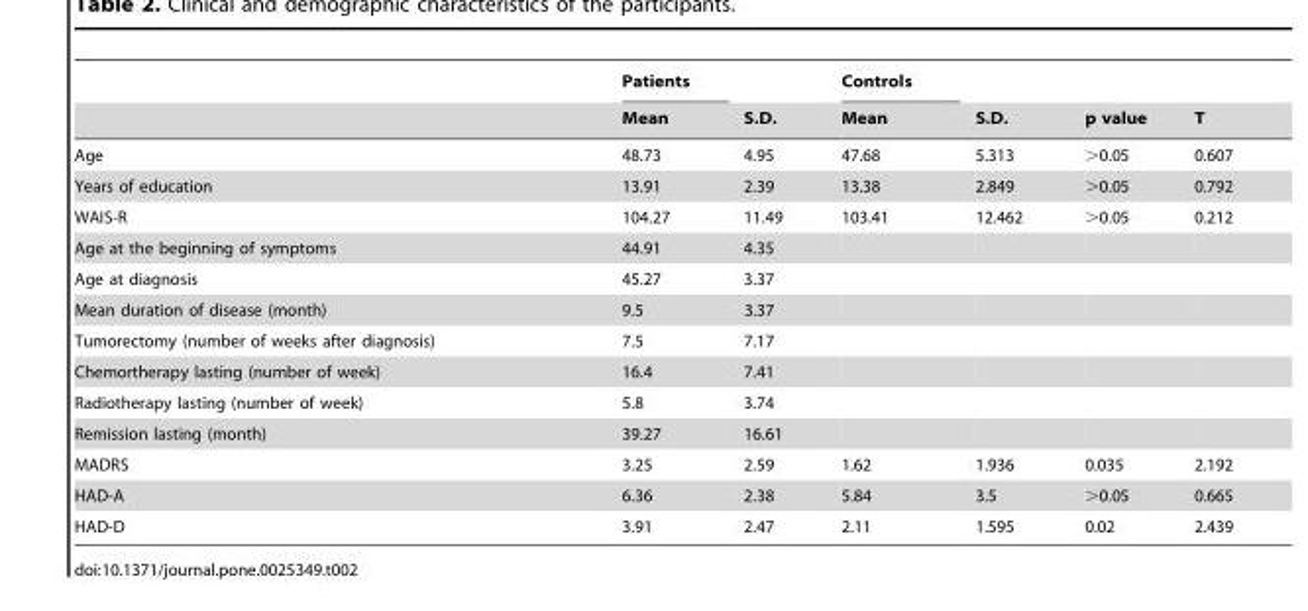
<table><thead><tr><td rowspan="2"></td><td rowspan="2">Patients Mean</td><td rowspan="2">S.D.</td><td rowspan="2">Controls Mean</td><td rowspan="2">S.D.</td><td rowspan="2">p value</td><td rowspan="2">T</td></tr><tr></tr></thead><tbody><tr><td>Age</td><td>48.73</td><td>4.95</td><td>47.68</td><td>5.313</td><td>&gt;0.05</td><td>0.607</td></tr><tr><td>Years of education</td><td>13.91</td><td>2.39</td><td>13.38</td><td>2.849</td><td>&gt;0.05</td><td>0.792</td></tr><tr><td>WAIS-R</td><td>104.27</td><td>11.49</td><td>103.41</td><td>12.462</td><td>&gt;0.05</td><td>0.212</td></tr><tr><td>Age at the beginning of symptoms</td><td>44.91</td><td>4.35</td><td></td><td></td><td></td><td></td></tr><tr><td>Age at diagnosis</td><td>45.27</td><td>3.37</td><td></td><td></td><td></td><td></td></tr><tr><td>Mean duration of disease (month)</td><td>9.5</td><td>3.37</td><td></td><td></td><td></td><td></td></tr><tr><td>Tumorectomy (number of weeks after diagnosis)</td><td>7.5</td><td>7.17</td><td></td><td></td><td></td><td></td></tr><tr><td>Chemortherapy lasting (number of week)</td><td>16.4</td><td>7.41</td><td></td><td></td><td></td><td></td></tr><tr><td>Radiotherapy lasting (number of week)</td><td>5.8</td><td>3.74</td><td></td><td></td><td></td><td></td></tr><tr><td>Remission lasting (month)</td><td>39.27</td><td>16.61</td><td></td><td></td><td></td><td></td></tr><tr><td>MADRS</td><td>3.25</td><td>2.59</td><td>1.62</td><td>1.936</td><td>0.035</td><td>2.192</td></tr><tr><td>HAD-A</td><td>6.36</td><td>2.38</td><td>5.84</td><td>3.5</td><td>&gt;0.05</td><td>0.665</td></tr><tr><td>HAD-D</td><td>3.91</td><td>2.47</td><td>2.11</td><td>1.595</td><td>0.02</td><td>2.439</td></tr></tbody></table>